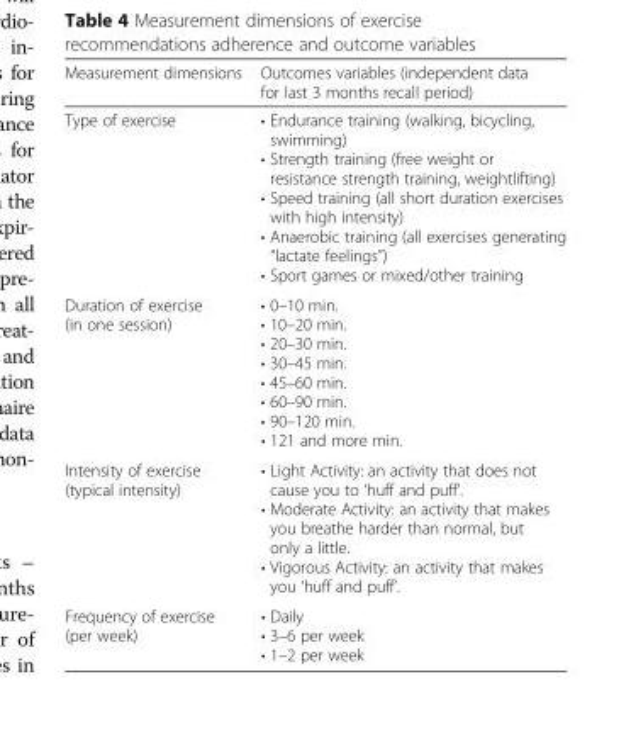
<table><thead><tr><td>Measurement dimensions</td><td>Outcomes variables (independent data for last 3 months recall period)</td></tr></thead><tbody><tr><td>Type of exercise</td><td>• Endurance training (walking, bicycling, swimming) • Strength training (free weight or resistance strength training, weightlifting) • Speed training (all short duration exercises with high intensity) • Anaerobic training (all exercises generating “lactate feelings”) • Sport games or mixed/other training</td></tr><tr><td>Duration of exercise (in one session)</td><td>• 0–10 min. • 10–20 min. • 20–30 min. • 30–45 min. • 45–60 min. • 60–90 min. • 90–120 min. • 121 and more min.</td></tr><tr><td>Intensity of exercise (typical intensity)</td><td>• Light Activity: an activity that does not cause you to ‘huff and puff’. • Moderate Activity: an activity that makes you breathe harder than normal, but only a little. • Vigorous Activity: an activity that makes you ‘huff and puff’.</td></tr><tr><td>Frequency of exercise (per week)</td><td>• Daily • 3–6 per week • 1–2 per week</td></tr></tbody></table>